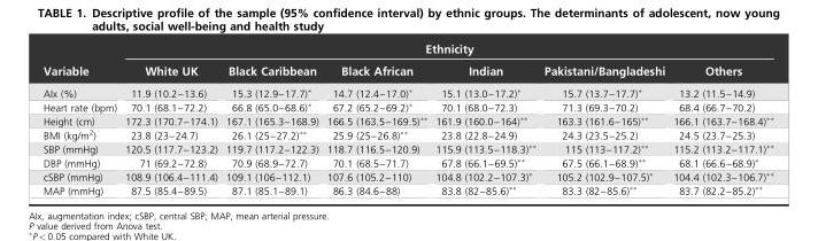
<table><thead><tr><td rowspan="2">Variable</td><td colspan="6">Ethnicity</td></tr><tr><td>White UK</td><td>Black Caribbean</td><td>Black African</td><td>Indian</td><td>Pakistani/Bangladeshi</td><td>Others</td></tr></thead><tbody><tr><td>AIx (%)</td><td>11.9 (10.2–13.6)</td><td>15.3 (12.9–17.7)*</td><td>14.7 (12.4–17.0)*</td><td>15.1 (13.0–17.2)*</td><td>15.7 (13.7–17.7)*</td><td>13.2 (11.5–14.9)</td></tr><tr><td>Heart rate (bpm)</td><td>70.1 (68.1–72.2)</td><td>66.8 (65.0–68.6)*</td><td>67.2 (65.2–69.2)*</td><td>70.1 (68.0–72.3)</td><td>71.3 (69.3–70.2)</td><td>68.4 (66.7–70.2)</td></tr><tr><td>Height (cm)</td><td>172.3 (170.7–174.1)</td><td>167.1 (165.3–168.9)</td><td>166.5 (163.5–169.5)**</td><td>161.9 (160.0–164)**</td><td>163.3 (161.6–165)**</td><td>166.1 (163.7–168.4)**</td></tr><tr><td>BMI (kg/m<sup>2</sup>)</td><td>23.8 (23–24.7)</td><td>26.1 (25–27.2)**</td><td>25.9 (25–26.8)**</td><td>23.8 (22.8–24.9)</td><td>24.3 (23.5–25.2)</td><td>24.5 (23.7–25.3)</td></tr><tr><td>SBP (mmHg)</td><td>120.5 (117.7–123.2)</td><td>119.7 (117.2–122.3)</td><td>118.7 (116.5–120.9)</td><td>115.9 (113.5–118.3)**</td><td>115 (113–117.2)**</td><td>115.2 (113.2–117.1)**</td></tr><tr><td>DBP (mmHg)</td><td>71 (69.2–72.8)</td><td>70.9 (68.9–72.7)</td><td>70.1 (68.5–71.7)</td><td>67.8 (66.1–69.5)**</td><td>67.5 (66.1–68.9)**</td><td>68.1 (66.6–68.9)*</td></tr><tr><td>cSBP (mmHg)</td><td>108.9 (106.4–111.4)</td><td>109.1 (106–112.1)</td><td>107.6 (105.2–110)</td><td>104.8 (102.2–107.3)*</td><td>105.2 (102.9–107.5)*</td><td>104.4 (102.3–106.7)**</td></tr><tr><td>MAP (mmHg)</td><td>87.5 (85.4–89.5)</td><td>87.1 (85.1–89.1)</td><td>86.3 (84.6–88)</td><td>83.8 (82–85.6)**</td><td>83.3 (82–85.6)**</td><td>83.7 (82.2–85.2)**</td></tr></tbody></table>